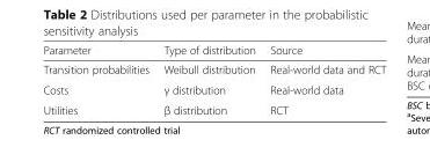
<table><thead><tr><td>Parameter</td><td>Type of distribution</td><td>Source</td></tr></thead><tbody><tr><td>Transition probabilities</td><td>Weibull distribution</td><td>Real-world data and RCT</td></tr><tr><td>Costs</td><td>γ distribution</td><td>Real-world data</td></tr><tr><td>Utilities</td><td>β distribution</td><td>RCT</td></tr></tbody></table>